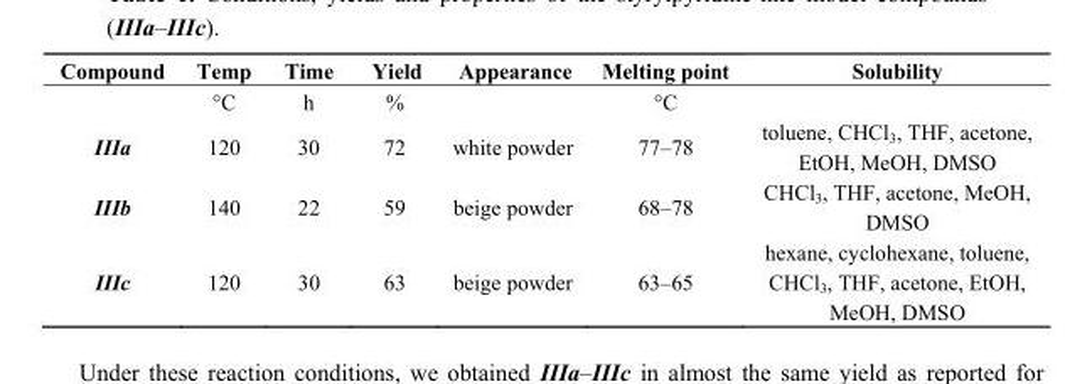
<table><thead><tr><td rowspan="2">Compound</td><td rowspan="2">Temp °C</td><td rowspan="2">Time h</td><td rowspan="2">Yield %</td><td rowspan="2">Appearance</td><td rowspan="2">Melting point °C</td><td rowspan="2">Solubility</td></tr><tr></tr></thead><tbody><tr><td>IIIa</td><td>120</td><td>30</td><td>72</td><td>white powder</td><td>77–78</td><td>toluene, CHCl<sub>3</sub>, THF, acetone, EtOH, MeOH, DMSO</td></tr><tr><td>IIIb</td><td>140</td><td>22</td><td>59</td><td>beige powder</td><td>68–78</td><td>CHCl<sub>3</sub>, THF, acetone, MeOH, DMSO</td></tr><tr><td>IIIc</td><td>120</td><td>30</td><td>63</td><td>beige powder</td><td>63–65</td><td>hexane, cyclohexane, toluene, CHCl<sub>3</sub>, THF, acetone, EtOH, MeOH, DMSO</td></tr></tbody></table>